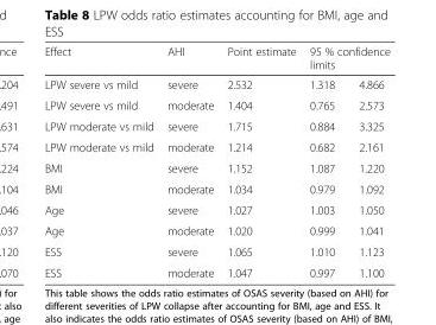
<table><thead><tr><td rowspan="2">Effect LPW severe vs mild</td><td rowspan="2">AHI severe</td><td rowspan="2">Point estimate 2.532</td><td colspan="2">95 % confidence limits</td></tr><tr><td>1.318</td><td>4.866</td></tr></thead><tbody><tr><td>LPW severe vs mild</td><td>moderate</td><td>1.404</td><td>0.765</td><td>2.573</td></tr><tr><td>LPW moderate vs mild</td><td>severe</td><td>1.715</td><td>0.884</td><td>3.325</td></tr><tr><td>LPW moderate vs mild</td><td>moderate</td><td>1.214</td><td>0.682</td><td>2.161</td></tr><tr><td>BMI</td><td>severe</td><td>1.152</td><td>1.087</td><td>1.220</td></tr><tr><td>BMI</td><td>moderate</td><td>1.034</td><td>0.979</td><td>1.092</td></tr><tr><td>Age</td><td>severe</td><td>1.027</td><td>1.003</td><td>1.050</td></tr><tr><td>Age</td><td>moderate</td><td>1.020</td><td>0.999</td><td>1.041</td></tr><tr><td>ESS</td><td>severe</td><td>1.065</td><td>1.010</td><td>1.123</td></tr><tr><td>ESS</td><td>moderate</td><td>1.047</td><td>0.997</td><td>1.100</td></tr></tbody></table>